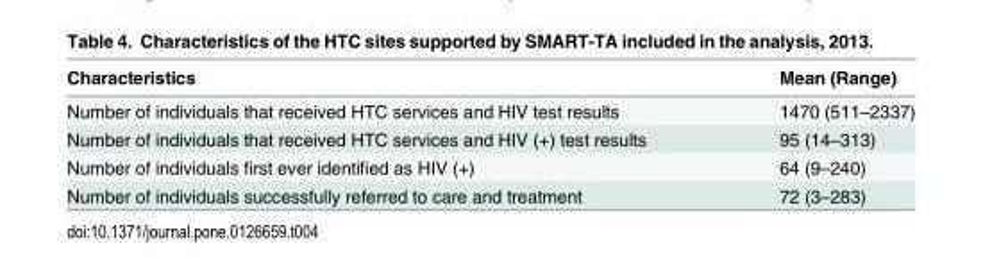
<table><thead><tr><td>Characteristics</td><td>Mean (Range)</td></tr></thead><tbody><tr><td>Number of individuals that received HTC services and HIV test results</td><td>1470 (511–2337)</td></tr><tr><td>Number of individuals that received HTC services and HIV (+) test results</td><td>95 (14–313)</td></tr><tr><td>Number of individuals first ever identified as HIV (+)</td><td>64 (9–240)</td></tr><tr><td>Number of individuals successfully referred to care and treatment</td><td>72 (3–283)</td></tr></tbody></table>